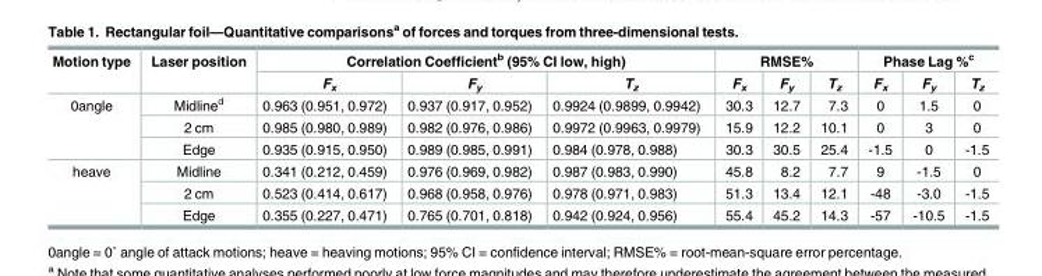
<table><thead><tr><td rowspan="2">Motion type</td><td rowspan="2">Laser position</td><td colspan="3">Correlation Coefficient<sup>b</sup> (95% CI low, high)</td><td colspan="3">RMSE%</td><td colspan="3">Phase Lag %<sup>c</sup></td></tr><tr><td>F<sub>x</sub></td><td>F<sub>y</sub></td><td>T<sub>z</sub></td><td>F<sub>x</sub></td><td>F<sub>y</sub></td><td>T<sub>z</sub></td><td>F<sub>x</sub></td><td>F<sub>y</sub></td><td>T<sub>z</sub></td></tr></thead><tbody><tr><td rowspan="3">0angle</td><td>Midline<sup>d</sup></td><td>0.963 (0.951, 0.972)</td><td>0.937 (0.917, 0.952)</td><td>0.9924 (0.9899, 0.9942)</td><td>30.3</td><td>12.7</td><td>7.3</td><td>0</td><td>1.5</td><td>0</td></tr><tr><td>2 cm</td><td>0.985 (0.980, 0.989)</td><td>0.982 (0.976, 0.986)</td><td>0.9972 (0.9963, 0.9979)</td><td>15.9</td><td>12.2</td><td>10.1</td><td>0</td><td>3</td><td>0</td></tr><tr><td>Edge</td><td>0.935 (0.915, 0.950)</td><td>0.989 (0.985, 0.991)</td><td>0.984 (0.978, 0.988)</td><td>30.3</td><td>30.5</td><td>25.4</td><td>-1.5</td><td>0</td><td>-1.5</td></tr><tr><td rowspan="3">heave</td><td>Midline</td><td>0.341 (0.212, 0.459)</td><td>0.976 (0.969, 0.982)</td><td>0.987 (0.983, 0.990)</td><td>45.8</td><td>8.2</td><td>7.7</td><td>9</td><td>-1.5</td><td>0</td></tr><tr><td>2 cm</td><td>0.523 (0.414, 0.617)</td><td>0.968 (0.958, 0.976)</td><td>0.978 (0.971, 0.983)</td><td>51.3</td><td>13.4</td><td>12.1</td><td>-48</td><td>-3.0</td><td>-1.5</td></tr><tr><td>Edge</td><td>0.355 (0.227, 0.471)</td><td>0.765 (0.701, 0.818)</td><td>0.942 (0.924, 0.956)</td><td>55.4</td><td>45.2</td><td>14.3</td><td>-57</td><td>-10.5</td><td>-1.5</td></tr></tbody></table>